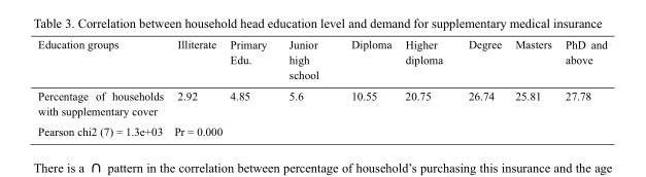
<table><thead><tr><td>Education groups</td><td>Illiterate</td><td>Primary Edu.</td><td>Junior high school</td><td>Diploma</td><td>Higher diploma</td><td>Degree</td><td>Masters</td><td>PhD and above</td></tr></thead><tbody><tr><td>Percentage of households with supplementary cover</td><td>2.92</td><td>4.85</td><td>5.6</td><td>10.55</td><td>20.75</td><td>26.74</td><td>25.81</td><td>27.78</td></tr><tr><td colspan="9">Pearson chi2 (7) = 1.3e+03 Pr = 0.000</td></tr></tbody></table>